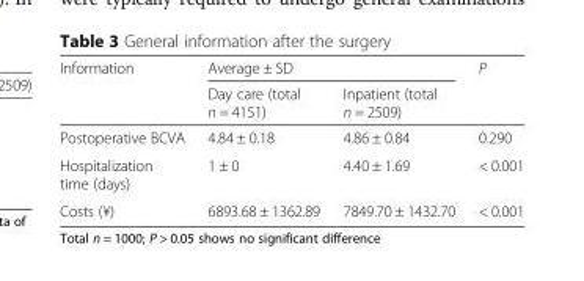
<table><thead><tr><td rowspan="2">Information</td><td colspan="2">Average ± SD</td><td rowspan="2">P</td></tr><tr><td>Day care (total n = 4151)</td><td>Inpatient (total n = 2509)</td></tr></thead><tbody><tr><td>Postoperative BCVA</td><td>4.84 ± 0.18</td><td>4.86 ± 0.84</td><td>0.290</td></tr><tr><td>Hospitalization time (days)</td><td>1 ± 0</td><td>4.40 ± 1.69</td><td>&lt; 0.001</td></tr><tr><td>Costs (¥)</td><td>6893.68 ± 1362.89</td><td>7849.70 ± 1432.70</td><td>&lt; 0.001</td></tr></tbody></table>